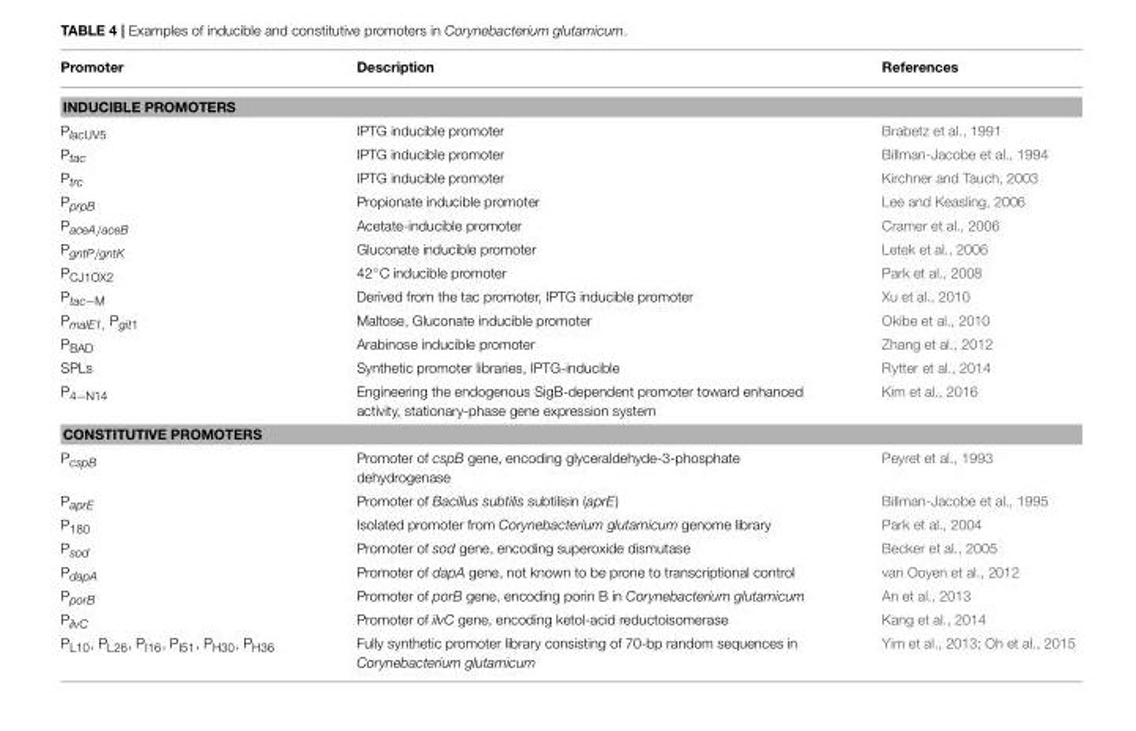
<table><thead><tr><td>Promoter</td><td>Description</td><td>References</td></tr></thead><tbody><tr><td colspan="3">INDUCIBLE PROMOTERS</td></tr><tr><td>P<sub>lacUV5</sub></td><td>IPTG inducible promoter</td><td>Brabetz et al., 1991</td></tr><tr><td>Ptac</td><td>IPTG inducible promoter</td><td>Billman-Jacobe et al., 1994</td></tr><tr><td>Ptrc</td><td>IPTG inducible promoter</td><td>Kirchner and Tauch, 2003</td></tr><tr><td>PprpB</td><td>Propionate inducible promoter</td><td>Lee and Keasling, 2006</td></tr><tr><td>P<sub>aceA/aceB</sub></td><td>Acetate-inducible promoter</td><td>Cramer et al., 2006</td></tr><tr><td>P<sub>gntP/gntK</sub></td><td>Gluconate inducible promoter</td><td>Letek et al., 2006</td></tr><tr><td>P<sub>CJ1OX2</sub></td><td>42◦C inducible promoter</td><td>Park et al., 2008</td></tr><tr><td>P<sub>tac−M</sub></td><td>Derived from the tac promoter, IPTG inducible promoter</td><td>Xu et al., 2010</td></tr><tr><td>PmalE1, Pgit1</td><td>Maltose, Gluconate inducible promoter</td><td>Okibe et al., 2010</td></tr><tr><td>P<sub>BAD</sub></td><td>Arabinose inducible promoter</td><td>Zhang et al., 2012</td></tr><tr><td>SPLs</td><td>Synthetic promoter libraries, IPTG-inducible</td><td>Rytter et al., 2014</td></tr><tr><td>P<sub>4−N14</sub></td><td>Engineering the endogenous SigB-dependent promoter toward enhanced activity, stationary-phase gene expression system</td><td>Kim et al., 2016</td></tr><tr><td colspan="3">CONSTITUTIVE PROMOTERS</td></tr><tr><td>PcspB</td><td>Promoter of cspB gene, encoding glyceraldehyde-3-phosphate dehydrogenase</td><td>Peyret et al., 1993</td></tr><tr><td>PaprE</td><td>Promoter of Bacillus subtilis subtilisin (aprE)</td><td>Billman-Jacobe et al., 1995</td></tr><tr><td>P<sub>180</sub></td><td>Isolated promoter from Corynebacterium glutamicum genome library</td><td>Park et al., 2004</td></tr><tr><td>Psod</td><td>Promoter of sod gene, encoding superoxide dismutase</td><td>Becker et al., 2005</td></tr><tr><td>PdapA</td><td>Promoter of dapA gene, not known to be prone to transcriptional control</td><td>van Ooyen et al., 2012</td></tr><tr><td>PporB</td><td>Promoter of porB gene, encoding porin B in Corynebacterium glutamicum</td><td>An et al., 2013</td></tr><tr><td>PilvC</td><td>Promoter of ilvC gene, encoding ketol-acid reductoisomerase</td><td>Kang et al., 2014</td></tr><tr><td>P<sub>L10</sub>, P<sub>L26</sub>, P<sub>I16</sub>, P<sub>I51</sub>, P<sub>H30</sub>, P<sub>H36</sub></td><td>Fully synthetic promoter library consisting of 70-bp random sequences in Corynebacterium glutamicum</td><td>Yim et al., 2013; Oh et al., 2015</td></tr></tbody></table>